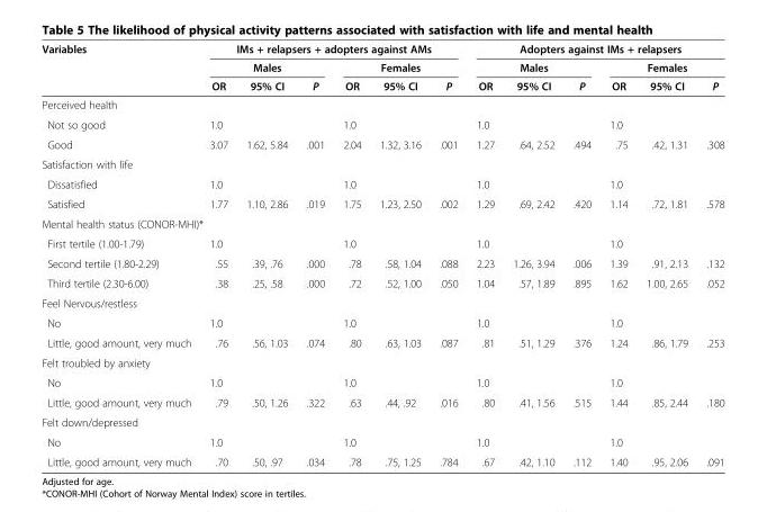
<table><thead><tr><td rowspan="3">Variables</td><td colspan="6">IMs + relapsers + adopters against AMs</td><td colspan="6">Adopters against IMs + relapsers</td></tr><tr><td colspan="3">Males</td><td colspan="3">Females</td><td colspan="3">Males</td><td colspan="3">Females</td></tr><tr><td>OR</td><td>95% CI</td><td>P</td><td>OR</td><td>95% CI</td><td>P</td><td>OR</td><td>95% CI</td><td>P</td><td>OR</td><td>95% CI</td><td>P</td></tr></thead><tbody><tr><td colspan="13">Perceived health</td></tr><tr><td>Not so good</td><td>1.0</td><td></td><td></td><td>1.0</td><td></td><td></td><td>1.0</td><td></td><td></td><td>1.0</td><td></td><td></td></tr><tr><td>Good</td><td>3.07</td><td>1.62, 5.84</td><td>.001</td><td>2.04</td><td>1.32, 3.16</td><td>.001</td><td>1.27</td><td>.64, 2.52</td><td>.494</td><td>.75</td><td>.42, 1.31</td><td>.308</td></tr><tr><td colspan="13">Satisfaction with life</td></tr><tr><td>Dissatisfied</td><td>1.0</td><td></td><td></td><td>1.0</td><td></td><td></td><td>1.0</td><td></td><td></td><td>1.0</td><td></td><td></td></tr><tr><td>Satisfied</td><td>1.77</td><td>1.10, 2.86</td><td>.019</td><td>1.75</td><td>1.23, 2.50</td><td>.002</td><td>1.29</td><td>.69, 2.42</td><td>.420</td><td>1.14</td><td>.72, 1.81</td><td>.578</td></tr><tr><td colspan="13">Mental health status (CONOR-MHI)*</td></tr><tr><td>First tertile (1.00-1.79)</td><td>1.0</td><td></td><td></td><td>1.0</td><td></td><td></td><td>1.0</td><td></td><td></td><td>1.0</td><td></td><td></td></tr><tr><td>Second tertile (1.80-2.29)</td><td>.55</td><td>.39, .76</td><td>.000</td><td>.78</td><td>.58, 1.04</td><td>.088</td><td>2.23</td><td>1.26, 3.94</td><td>.006</td><td>1.39</td><td>.91, 2.13</td><td>.132</td></tr><tr><td>Third tertile (2.30-6.00)</td><td>.38</td><td>.25, .58</td><td>.000</td><td>.72</td><td>.52, 1.00</td><td>.050</td><td>1.04</td><td>.57, 1.89</td><td>.895</td><td>1.62</td><td>1.00, 2.65</td><td>.052</td></tr><tr><td colspan="13">Feel Nervous/restless</td></tr><tr><td>No</td><td>1.0</td><td></td><td></td><td>1.0</td><td></td><td></td><td>1.0</td><td></td><td></td><td>1.0</td><td></td><td></td></tr><tr><td>Little, good amount, very much</td><td>.76</td><td>.56, 1.03</td><td>.074</td><td>.80</td><td>.63, 1.03</td><td>.087</td><td>.81</td><td>.51, 1.29</td><td>.376</td><td>1.24</td><td>.86, 1.79</td><td>.253</td></tr><tr><td colspan="13">Felt troubled by anxiety</td></tr><tr><td>No</td><td>1.0</td><td></td><td></td><td>1.0</td><td></td><td></td><td>1.0</td><td></td><td></td><td>1.0</td><td></td><td></td></tr><tr><td>Little, good amount, very much</td><td>.79</td><td>.50, 1.26</td><td>.322</td><td>.63</td><td>.44, .92</td><td>.016</td><td>.80</td><td>.41, 1.56</td><td>.515</td><td>1.44</td><td>.85, 2.44</td><td>.180</td></tr><tr><td colspan="13">Felt down/depressed</td></tr><tr><td>No</td><td>1.0</td><td></td><td></td><td>1.0</td><td></td><td></td><td>1.0</td><td></td><td></td><td>1.0</td><td></td><td></td></tr><tr><td>Little, good amount, very much</td><td>.70</td><td>.50, .97</td><td>.034</td><td>.78</td><td>.75, 1.25</td><td>.784</td><td>.67</td><td>.42, 1.10</td><td>.112</td><td>1.40</td><td>.95, 2.06</td><td>.091</td></tr></tbody></table>